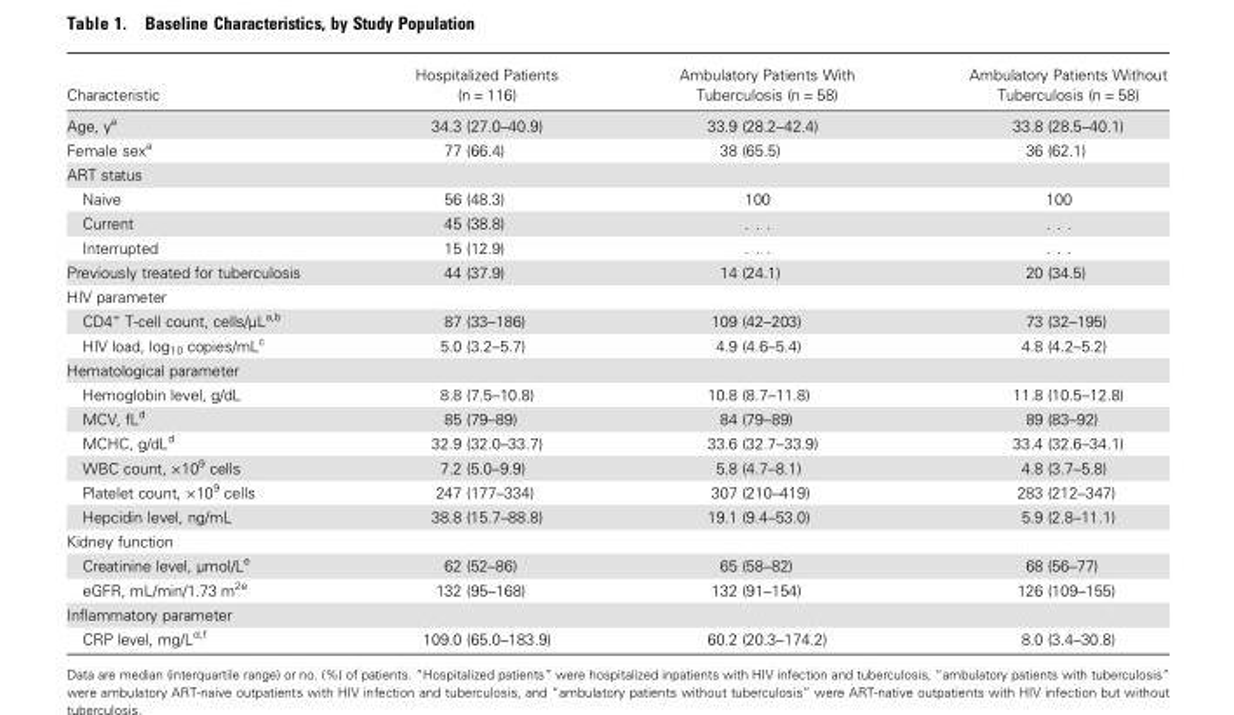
<table><thead><tr><td>Characteristic</td><td>Hospitalized Patients (n = 116)</td><td>Ambulatory Patients With Tuberculosis (n = 58)</td><td>Ambulatory Patients Without Tuberculosis (n = 58)</td></tr></thead><tbody><tr><td>Age, y<sup>a</sup></td><td>34.3 (27.0–40.9)</td><td>33.9 (28.2–42.4)</td><td>33.8 (28.5–40.1)</td></tr><tr><td>Female sex<sup>a</sup></td><td>77 (66.4)</td><td>38 (65.5)</td><td>36 (62.1)</td></tr><tr><td colspan="4">ART status</td></tr><tr><td>Naive</td><td>56 (48.3)</td><td>100</td><td>100</td></tr><tr><td>Current</td><td>45 (38.8)</td><td>. . .</td><td>. . .</td></tr><tr><td>Interrupted</td><td>15 (12.9)</td><td>. . .</td><td>. . .</td></tr><tr><td>Previously treated for tuberculosis</td><td>44 (37.9)</td><td>14 (24.1)</td><td>20 (34.5)</td></tr><tr><td colspan="4">HIV parameter</td></tr><tr><td>CD4<sup>+</sup> T-cell count, cells/µL<sup>a,b</sup></td><td>87 (33–186)</td><td>109 (42–203)</td><td>73 (32–195)</td></tr><tr><td>HIV load, log<sub>10</sub> copies/mL<sup>c</sup></td><td>5.0 (3.2–5.7)</td><td>4.9 (4.6–5.4)</td><td>4.8 (4.2–5.2)</td></tr><tr><td colspan="4">Hematological parameter</td></tr><tr><td>Hemoglobin level, g/dL</td><td>8.8 (7.5–10.8)</td><td>10.8 (8.7–11.8)</td><td>11.8 (10.5–12.8)</td></tr><tr><td>MCV, fL<sup>d</sup></td><td>85 (79–89)</td><td>84 (79–89)</td><td>89 (83–92)</td></tr><tr><td>MCHC, g/dL<sup>d</sup></td><td>32.9 (32.0–33.7)</td><td>33.6 (32.7–33.9)</td><td>33.4 (32.6–34.1)</td></tr><tr><td>WBC count, ×10<sup>9</sup> cells</td><td>7.2 (5.0–9.9)</td><td>5.8 (4.7–8.1)</td><td>4.8 (3.7–5.8)</td></tr><tr><td>Platelet count, ×10<sup>9</sup> cells</td><td>247 (177–334)</td><td>307 (210–419)</td><td>283 (212–347)</td></tr><tr><td>Hepcidin level, ng/mL</td><td>38.8 (15.7–88.8)</td><td>19.1 (9.4–53.0)</td><td>5.9 (2.8–11.1)</td></tr><tr><td colspan="4">Kidney function</td></tr><tr><td>Creatinine level, µmol/L<sup>e</sup></td><td>62 (52–86)</td><td>65 (58–82)</td><td>68 (56–77)</td></tr><tr><td>eGFR, mL/min/1.73 m<sup>2e</sup></td><td>132 (95–168)</td><td>132 (91–154)</td><td>126 (109–155)</td></tr><tr><td colspan="4">Inflammatory parameter</td></tr><tr><td>CRP level, mg/L<sup>d,f</sup></td><td>109.0 (65.0–183.9)</td><td>60.2 (20.3–174.2)</td><td>8.0 (3.4–30.8)</td></tr></tbody></table>